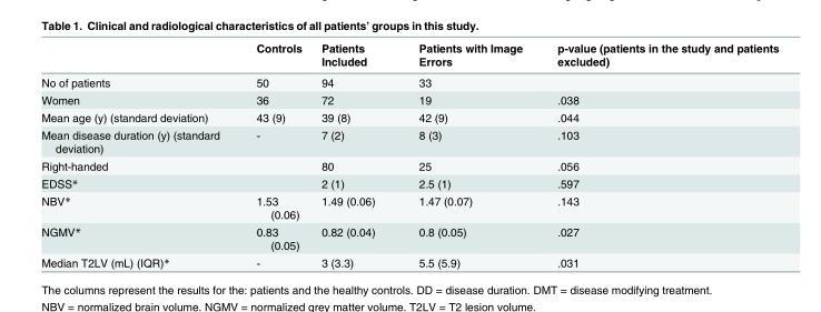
<table><thead><tr><td></td><td>Controls</td><td>Patients Included</td><td>Patients with Image Errors</td><td>p-value (patients in the study and patients excluded)</td></tr></thead><tbody><tr><td>No of patients</td><td>50</td><td>94</td><td>33</td><td></td></tr><tr><td>Women</td><td>36</td><td>72</td><td>19</td><td>.038</td></tr><tr><td>Mean age (y) (standard deviation)</td><td>43 (9)</td><td>39 (8)</td><td>42 (9)</td><td>.044</td></tr><tr><td>Mean disease duration (y) (standard deviation)</td><td>-</td><td>7 (2)</td><td>8 (3)</td><td>.103</td></tr><tr><td>Right-handed</td><td></td><td>80</td><td>25</td><td>.056</td></tr><tr><td>EDSS*</td><td></td><td>2 (1)</td><td>2.5 (1)</td><td>.597</td></tr><tr><td>NBV*</td><td>1.53 (0.06)</td><td>1.49 (0.06)</td><td>1.47 (0.07)</td><td>.143</td></tr><tr><td>NGMV*</td><td>0.83 (0.05)</td><td>0.82 (0.04)</td><td>0.8 (0.05)</td><td>.027</td></tr><tr><td>Median T2LV (mL) (IQR)*</td><td>-</td><td>3 (3.3)</td><td>5.5 (5.9)</td><td>.031</td></tr></tbody></table>